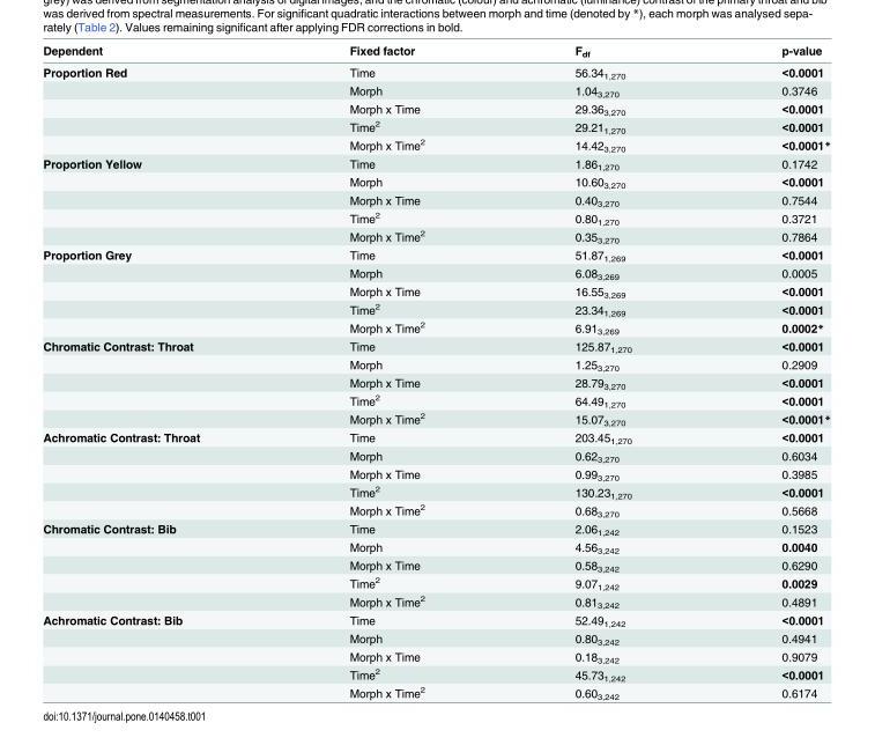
<table><thead><tr><td>Dependent</td><td>Fixed factor</td><td>F<sub>df</sub></td><td>p-value</td></tr></thead><tbody><tr><td rowspan="5">Proportion Red</td><td>Time</td><td>56.34<sub>1,270</sub></td><td>&lt;0.0001</td></tr><tr><td>Morph</td><td>1.04<sub>3,270</sub></td><td>0.3746</td></tr><tr><td>Morph x Time</td><td>29.36<sub>3,270</sub></td><td>&lt;0.0001</td></tr><tr><td>Time<sup>2</sup></td><td>29.21<sub>1,270</sub></td><td>&lt;0.0001</td></tr><tr><td>Morph x Time<sup>2</sup></td><td>14.42<sub>3,270</sub></td><td>&lt;0.0001*</td></tr><tr><td rowspan="5">Proportion Yellow</td><td>Time</td><td>1.86<sub>1,270</sub></td><td>0.1742</td></tr><tr><td>Morph</td><td>10.60<sub>3,270</sub></td><td>&lt;0.0001</td></tr><tr><td>Morph x Time</td><td>0.40<sub>3,270</sub></td><td>0.7544</td></tr><tr><td>Time<sup>2</sup></td><td>0.80<sub>1,270</sub></td><td>0.3721</td></tr><tr><td>Morph x Time<sup>2</sup></td><td>0.35<sub>3,270</sub></td><td>0.7864</td></tr><tr><td rowspan="5">Proportion Grey</td><td>Time</td><td>51.87<sub>1,269</sub></td><td>&lt;0.0001</td></tr><tr><td>Morph</td><td>6.08<sub>3,269</sub></td><td>0.0005</td></tr><tr><td>Morph x Time</td><td>16.55<sub>3,269</sub></td><td>&lt;0.0001</td></tr><tr><td>Time<sup>2</sup></td><td>23.34<sub>1,269</sub></td><td>&lt;0.0001</td></tr><tr><td>Morph x Time<sup>2</sup></td><td>6.91<sub>3,269</sub></td><td>0.0002*</td></tr><tr><td rowspan="5">Chromatic Contrast: Throat</td><td>Time</td><td>125.87<sub>1,270</sub></td><td>&lt;0.0001</td></tr><tr><td>Morph</td><td>1.25<sub>3,270</sub></td><td>0.2909</td></tr><tr><td>Morph x Time</td><td>28.79<sub>3,270</sub></td><td>&lt;0.0001</td></tr><tr><td>Time<sup>2</sup></td><td>64.49<sub>1,270</sub></td><td>&lt;0.0001</td></tr><tr><td>Morph x Time<sup>2</sup></td><td>15.07<sub>3,270</sub></td><td>&lt;0.0001*</td></tr><tr><td rowspan="5">Achromatic Contrast: Throat</td><td>Time</td><td>203.45<sub>1,270</sub></td><td>&lt;0.0001</td></tr><tr><td>Morph</td><td>0.62<sub>3,270</sub></td><td>0.6034</td></tr><tr><td>Morph x Time</td><td>0.99<sub>3,270</sub></td><td>0.3985</td></tr><tr><td>Time<sup>2</sup></td><td>130.23<sub>1,270</sub></td><td>&lt;0.0001</td></tr><tr><td>Morph x Time<sup>2</sup></td><td>0.68<sub>3,270</sub></td><td>0.5668</td></tr><tr><td rowspan="5">Chromatic Contrast: Bib</td><td>Time</td><td>2.06<sub>1,242</sub></td><td>0.1523</td></tr><tr><td>Morph</td><td>4.56<sub>3,242</sub></td><td>0.0040</td></tr><tr><td>Morph x Time</td><td>0.58<sub>3,242</sub></td><td>0.6290</td></tr><tr><td>Time<sup>2</sup></td><td>9.07<sub>1,242</sub></td><td>0.0029</td></tr><tr><td>Morph x Time<sup>2</sup></td><td>0.81<sub>3,242</sub></td><td>0.4891</td></tr><tr><td rowspan="5">Achromatic Contrast: Bib</td><td>Time</td><td>52.49<sub>1,242</sub></td><td>&lt;0.0001</td></tr><tr><td>Morph</td><td>0.80<sub>3,242</sub></td><td>0.4941</td></tr><tr><td>Morph x Time</td><td>0.18<sub>3,242</sub></td><td>0.9079</td></tr><tr><td>Time<sup>2</sup></td><td>45.73<sub>1,242</sub></td><td>&lt;0.0001</td></tr><tr><td>Morph x Time<sup>2</sup></td><td>0.60<sub>3,242</sub></td><td>0.6174</td></tr></tbody></table>